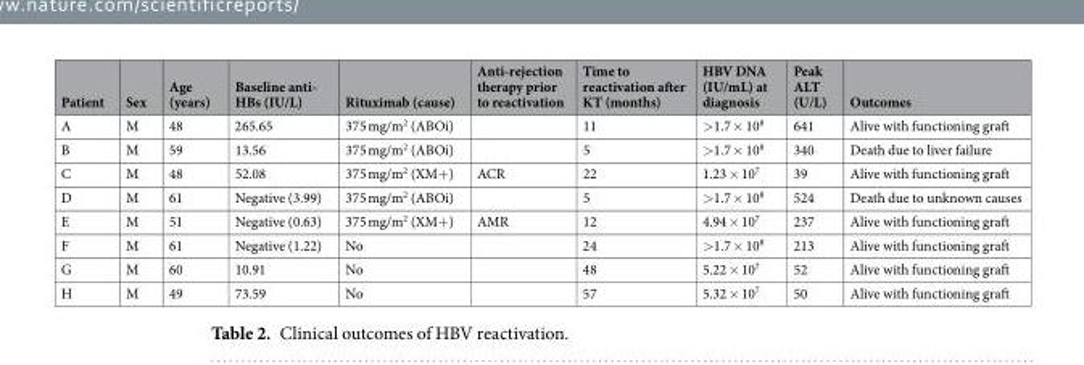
<table><thead><tr><td>Patient</td><td>Sex</td><td>Age (years)</td><td>Baseline anti- HBs (IU/L)</td><td>Rituximab (cause)</td><td>Anti-rejection therapy prior to reactivation</td><td>Time to reactivation after KT (months)</td><td>HBV DNA (IU/mL) at diagnosis</td><td>Peak ALT (U/L)</td><td>Outcomes</td></tr></thead><tbody><tr><td>A</td><td>M</td><td>48</td><td>265.65</td><td>375 mg/m<sup>2</sup> (ABOi)</td><td></td><td>11</td><td>&gt;1.7 × 10<sup>8</sup></td><td>641</td><td>Alive with functioning graft</td></tr><tr><td>B</td><td>M</td><td>59</td><td>13.56</td><td>375 mg/m<sup>2</sup> (ABOi)</td><td></td><td>5</td><td>&gt;1.7 × 10<sup>8</sup></td><td>340</td><td>Death due to liver failure</td></tr><tr><td>C</td><td>M</td><td>48</td><td>52.08</td><td>375 mg/m<sup>2</sup> (XM+)</td><td>ACR</td><td>22</td><td>1.23 × 10<sup>7</sup></td><td>39</td><td>Alive with functioning graft</td></tr><tr><td>D</td><td>M</td><td>61</td><td>Negative (3.99)</td><td>375 mg/m<sup>2</sup> (ABOi)</td><td></td><td>5</td><td>&gt;1.7 × 10<sup>8</sup></td><td>524</td><td>Death due to unknown causes</td></tr><tr><td>E</td><td>M</td><td>51</td><td>Negative (0.63)</td><td>375 mg/m<sup>2</sup> (XM+)</td><td>AMR</td><td>12</td><td>4.94 × 10<sup>7</sup></td><td>237</td><td>Alive with functioning graft</td></tr><tr><td>F</td><td>M</td><td>61</td><td>Negative (1.22)</td><td>No</td><td></td><td>24</td><td>&gt;1.7 × 10<sup>8</sup></td><td>213</td><td>Alive with functioning graft</td></tr><tr><td>G</td><td>M</td><td>60</td><td>10.91</td><td>No</td><td></td><td>48</td><td>5.22 × 10<sup>7</sup></td><td>52</td><td>Alive with functioning graft</td></tr><tr><td>H</td><td>M</td><td>49</td><td>73.59</td><td>No</td><td></td><td>57</td><td>5.32 × 10<sup>7</sup></td><td>50</td><td>Alive with functioning graft</td></tr></tbody></table>